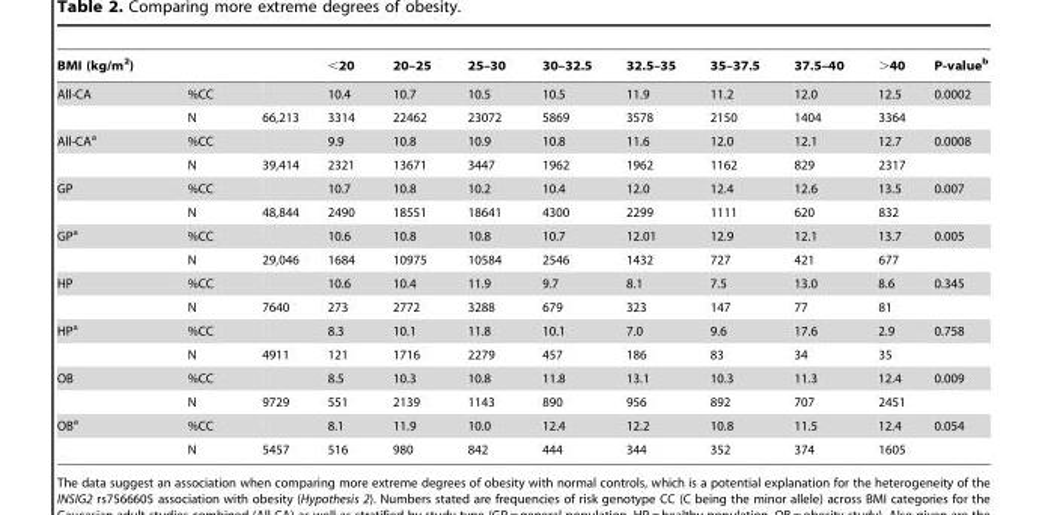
<table><thead><tr><td>BMI (kg/m<sup>2</sup>)</td><td></td><td></td><td>&lt;20</td><td>20–25</td><td>25–30</td><td>30–32.5</td><td>32.5–35</td><td>35–37.5</td><td>37.5–40</td><td>&gt;40</td><td>P-value<sup>b</sup></td></tr></thead><tbody><tr><td rowspan="2">All-CA</td><td>%CC</td><td></td><td>10.4</td><td>10.7</td><td>10.5</td><td>10.5</td><td>11.9</td><td>11.2</td><td>12.0</td><td>12.5</td><td>0.0002</td></tr><tr><td>N</td><td>66,213</td><td>3314</td><td>22462</td><td>23072</td><td>5869</td><td>3578</td><td>2150</td><td>1404</td><td>3364</td><td></td></tr><tr><td rowspan="2">All-CA<sup>a</sup></td><td>%CC</td><td></td><td>9.9</td><td>10.8</td><td>10.9</td><td>10.8</td><td>11.6</td><td>12.0</td><td>12.1</td><td>12.7</td><td>0.0008</td></tr><tr><td>N</td><td>39,414</td><td>2321</td><td>13671</td><td>3447</td><td>1962</td><td>1962</td><td>1162</td><td>829</td><td>2317</td><td></td></tr><tr><td rowspan="2">GP</td><td>%CC</td><td></td><td>10.7</td><td>10.8</td><td>10.2</td><td>10.4</td><td>12.0</td><td>12.4</td><td>12.6</td><td>13.5</td><td>0.007</td></tr><tr><td>N</td><td>48,844</td><td>2490</td><td>18551</td><td>18641</td><td>4300</td><td>2299</td><td>1111</td><td>620</td><td>832</td><td></td></tr><tr><td rowspan="2">GP<sup>a</sup></td><td>%CC</td><td></td><td>10.6</td><td>10.8</td><td>10.8</td><td>10.7</td><td>12.01</td><td>12.9</td><td>12.1</td><td>13.7</td><td>0.005</td></tr><tr><td>N</td><td>29,046</td><td>1684</td><td>10975</td><td>10584</td><td>2546</td><td>1432</td><td>727</td><td>421</td><td>677</td><td></td></tr><tr><td rowspan="2">HP</td><td>%CC</td><td></td><td>10.6</td><td>10.4</td><td>11.9</td><td>9.7</td><td>8.1</td><td>7.5</td><td>13.0</td><td>8.6</td><td>0.345</td></tr><tr><td>N</td><td>7640</td><td>273</td><td>2772</td><td>3288</td><td>679</td><td>323</td><td>147</td><td>77</td><td>81</td><td></td></tr><tr><td rowspan="2">HP<sup>a</sup></td><td>%CC</td><td></td><td>8.3</td><td>10.1</td><td>11.8</td><td>10.1</td><td>7.0</td><td>9.6</td><td>17.6</td><td>2.9</td><td>0.758</td></tr><tr><td>N</td><td>4911</td><td>121</td><td>1716</td><td>2279</td><td>457</td><td>186</td><td>83</td><td>34</td><td>35</td><td></td></tr><tr><td rowspan="2">OB</td><td>%CC</td><td></td><td>8.5</td><td>10.3</td><td>10.8</td><td>11.8</td><td>13.1</td><td>10.3</td><td>11.3</td><td>12.4</td><td>0.009</td></tr><tr><td>N</td><td>9729</td><td>551</td><td>2139</td><td>1143</td><td>890</td><td>956</td><td>892</td><td>707</td><td>2451</td><td></td></tr><tr><td rowspan="2">OB<sup>a</sup></td><td>%CC</td><td></td><td>8.1</td><td>11.9</td><td>10.0</td><td>12.4</td><td>12.2</td><td>10.8</td><td>11.5</td><td>12.4</td><td>0.054</td></tr><tr><td>N</td><td>5457</td><td>516</td><td>980</td><td>842</td><td>444</td><td>344</td><td>352</td><td>374</td><td>1605</td><td></td></tr></tbody></table>